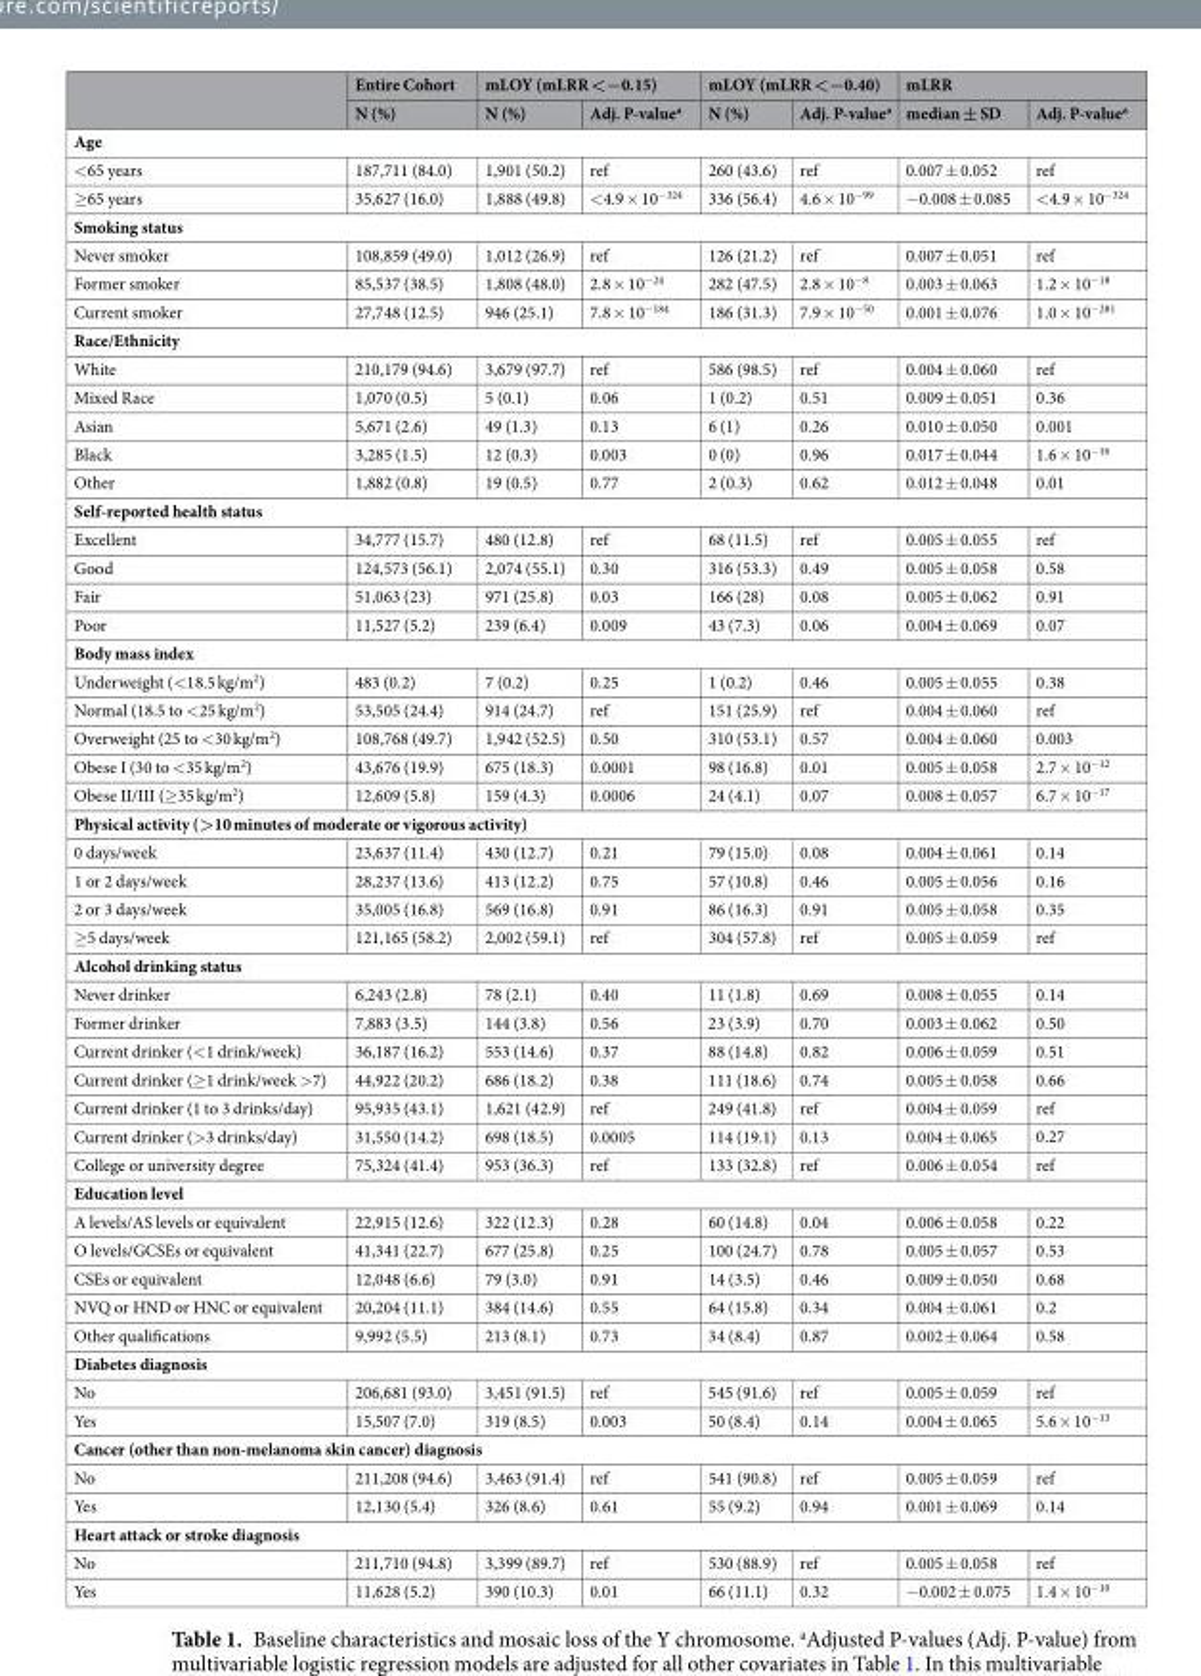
<table><thead><tr><td rowspan="2"></td><td rowspan="2">Entire Cohort N (%)</td><td colspan="2">mLOY (mLRR &lt;−0.15)</td><td colspan="2">mLOY (mLRR &lt;−0.40)</td><td colspan="2">mLRR</td></tr><tr><td>N (%)</td><td>Adj. P-value<sup>a</sup></td><td>N (%)</td><td>Adj. P-value<sup>a</sup></td><td>median ± SD</td><td>Adj. P-value<sup>a</sup></td></tr></thead><tbody><tr><td colspan="8">Age</td></tr><tr><td>&lt;65 years</td><td>187,711 (84.0)</td><td>1,901 (50.2)</td><td>ref</td><td>260 (43.6)</td><td>ref</td><td>0.007 ± 0.052</td><td>ref</td></tr><tr><td>≥65 years</td><td>35,627 (16.0)</td><td>1,888 (49.8)</td><td>&lt;4.9 × 10<sup>−324</sup></td><td>336 (56.4)</td><td>4.6 × 10<sup>−99</sup></td><td>−0.008 ± 0.085</td><td>&lt;4.9 × 10<sup>−324</sup></td></tr><tr><td colspan="8">Smoking status</td></tr><tr><td>Never smoker</td><td>108,859 (49.0)</td><td>1,012 (26.9)</td><td>ref</td><td>126 (21.2)</td><td>ref</td><td>0.007 ± 0.051</td><td>ref</td></tr><tr><td>Former smoker</td><td>85,537 (38.5)</td><td>1,808 (48.0)</td><td>2.8 × 10<sup>−24</sup></td><td>282 (47.5)</td><td>2.8 × 10<sup>−8</sup></td><td>0.003 ± 0.063</td><td>1.2 × 10<sup>−18</sup></td></tr><tr><td>Current smoker</td><td>27,748 (12.5)</td><td>946 (25.1)</td><td>7.8 × 10<sup>−184</sup></td><td>186 (31.3)</td><td>7.9 × 10<sup>−50</sup></td><td>0.001 ± 0.076</td><td>1.0 × 10<sup>−281</sup></td></tr><tr><td colspan="8">Race/Ethnicity</td></tr><tr><td>White</td><td>210,179 (94.6)</td><td>3,679 (97.7)</td><td>ref</td><td>586 (98.5)</td><td>ref</td><td>0.004 ± 0.060</td><td>ref</td></tr><tr><td>Mixed Race</td><td>1,070 (0.5)</td><td>5 (0.1)</td><td>0.06</td><td>1 (0.2)</td><td>0.51</td><td>0.009 ± 0.051</td><td>0.36</td></tr><tr><td>Asian</td><td>5,671 (2.6)</td><td>49 (1.3)</td><td>0.13</td><td>6 (1)</td><td>0.26</td><td>0.010 ± 0.050</td><td>0.001</td></tr><tr><td>Black</td><td>3,285 (1.5)</td><td>12 (0.3)</td><td>0.003</td><td>0 (0)</td><td>0.96</td><td>0.017 ± 0.044</td><td>1.6 × 10<sup>−16</sup></td></tr><tr><td>Other</td><td>1,882 (0.8)</td><td>19 (0.5)</td><td>0.77</td><td>2 (0.3)</td><td>0.62</td><td>0.012 ± 0.048</td><td>0.01</td></tr><tr><td colspan="8">Self-reported health status</td></tr><tr><td>Excellent</td><td>34,777 (15.7)</td><td>480 (12.8)</td><td>ref</td><td>68 (11.5)</td><td>ref</td><td>0.005 ± 0.055</td><td>ref</td></tr><tr><td>Good</td><td>124,573 (56.1)</td><td>2,074 (55.1)</td><td>0.30</td><td>316 (53.3)</td><td>0.49</td><td>0.005 ± 0.058</td><td>0.58</td></tr><tr><td>Fair</td><td>51,063 (23)</td><td>971 (25.8)</td><td>0.03</td><td>166 (28)</td><td>0.08</td><td>0.005 ± 0.062</td><td>0.91</td></tr><tr><td>Poor</td><td>11,527 (5.2)</td><td>239 (6.4)</td><td>0.009</td><td>43 (7.3)</td><td>0.06</td><td>0.004 ± 0.069</td><td>0.07</td></tr><tr><td colspan="8">Body mass index</td></tr><tr><td>Underweight (&lt;18.5 kg/m<sup>2</sup>)</td><td>483 (0.2)</td><td>7 (0.2)</td><td>0.25</td><td>1 (0.2)</td><td>0.46</td><td>0.005 ± 0.055</td><td>0.38</td></tr><tr><td>Normal (18.5 to &lt;25 kg/m<sup>2</sup>)</td><td>53,505 (24.4)</td><td>914 (24.7)</td><td>ref</td><td>151 (25.9)</td><td>ref</td><td>0.004 ± 0.060</td><td>ref</td></tr><tr><td>Overweight (25 to &lt;30 kg/m<sup>2</sup>)</td><td>108,768 (49.7)</td><td>1,942 (52.5)</td><td>0.50</td><td>310 (53.1)</td><td>0.57</td><td>0.004 ± 0.060</td><td>0.003</td></tr><tr><td>Obese I (30 to &lt;35 kg/m<sup>2</sup>)</td><td>43,676 (19.9)</td><td>675 (18.3)</td><td>0.0001</td><td>98 (16.8)</td><td>0.01</td><td>0.005 ± 0.058</td><td>2.7 × 10<sup>−12</sup></td></tr><tr><td>Obese II/III (≥35 kg/m<sup>2</sup>)</td><td>12,609 (5.8)</td><td>159 (4.3)</td><td>0.0006</td><td>24 (4.1)</td><td>0.07</td><td>0.008 ± 0.057</td><td>6.7 × 10<sup>−17</sup></td></tr><tr><td colspan="8">Physical activity (&gt;10 minutes of moderate or vigorous activity)</td></tr><tr><td>0 days/week</td><td>23,637 (11.4)</td><td>430 (12.7)</td><td>0.21</td><td>79 (15.0)</td><td>0.08</td><td>0.004 ± 0.061</td><td>0.14</td></tr><tr><td>1 or 2 days/week</td><td>28,237 (13.6)</td><td>413 (12.2)</td><td>0.75</td><td>57 (10.8)</td><td>0.46</td><td>0.005 ± 0.056</td><td>0.16</td></tr><tr><td>2 or 3 days/week</td><td>35,005 (16.8)</td><td>569 (16.8)</td><td>0.91</td><td>86 (16.3)</td><td>0.91</td><td>0.005 ± 0.058</td><td>0.35</td></tr><tr><td>≥5 days/week</td><td>121,165 (58.2)</td><td>2,002 (59.1)</td><td>ref</td><td>304 (57.8)</td><td>ref</td><td>0.005 ± 0.059</td><td>ref</td></tr><tr><td colspan="8">Alcohol drinking status</td></tr><tr><td>Never drinker</td><td>6,243 (2.8)</td><td>78 (2.1)</td><td>0.40</td><td>11 (1.8)</td><td>0.69</td><td>0.008 ± 0.055</td><td>0.14</td></tr><tr><td>Former drinker</td><td>7,883 (3.5)</td><td>144 (3.8)</td><td>0.56</td><td>23 (3.9)</td><td>0.70</td><td>0.003 ± 0.062</td><td>0.50</td></tr><tr><td>Current drinker (&lt;1 drink/week)</td><td>36,187 (16.2)</td><td>553 (14.6)</td><td>0.37</td><td>88 (14.8)</td><td>0.82</td><td>0.006 ± 0.059</td><td>0.51</td></tr><tr><td>Current drinker (≥1 drink/week &gt;7)</td><td>44,922 (20.2)</td><td>686 (18.2)</td><td>0.38</td><td>111 (18.6)</td><td>0.74</td><td>0.005 ± 0.058</td><td>0.66</td></tr><tr><td>Current drinker (1 to 3 drinks/day)</td><td>95,935 (43.1)</td><td>1,621 (42.9)</td><td>ref</td><td>249 (41.8)</td><td>ref</td><td>0.004 ± 0.059</td><td>ref</td></tr><tr><td>Current drinker (&gt;3 drinks/day)</td><td>31,550 (14.2)</td><td>698 (18.5)</td><td>0.0005</td><td>114 (19.1)</td><td>0.13</td><td>0.004 ± 0.065</td><td>0.27</td></tr><tr><td>College or university degree</td><td>75,324 (41.4)</td><td>953 (36.3)</td><td>ref</td><td>133 (32.8)</td><td>ref</td><td>0.006 ± 0.054</td><td>ref</td></tr><tr><td colspan="8">Education level</td></tr><tr><td>A levels/AS levels or equivalent</td><td>22,915 (12.6)</td><td>322 (12.3)</td><td>0.28</td><td>60 (14.8)</td><td>0.04</td><td>0.006 ± 0.058</td><td>0.22</td></tr><tr><td>O levels/GCSEs or equivalent</td><td>41,341 (22.7)</td><td>677 (25.8)</td><td>0.25</td><td>100 (24.7)</td><td>0.78</td><td>0.005 ± 0.057</td><td>0.53</td></tr><tr><td>CSEs or equivalent</td><td>12,048 (6.6)</td><td>79 (3.0)</td><td>0.91</td><td>14 (3.5)</td><td>0.46</td><td>0.009 ± 0.050</td><td>0.68</td></tr><tr><td>NVQ or HND or HNC or equivalent</td><td>20,204 (11.1)</td><td>384 (14.6)</td><td>0.55</td><td>64 (15.8)</td><td>0.34</td><td>0.004 ± 0.061</td><td>0.2</td></tr><tr><td>Other qualifications</td><td>9,992 (5.5)</td><td>213 (8.1)</td><td>0.73</td><td>34 (8.4)</td><td>0.87</td><td>0.002 ± 0.064</td><td>0.58</td></tr><tr><td colspan="8">Diabetes diagnosis</td></tr><tr><td>No</td><td>206,681 (93.0)</td><td>3,451 (91.5)</td><td>ref</td><td>545 (91.6)</td><td>ref</td><td>0.005 ± 0.059</td><td>ref</td></tr><tr><td>Yes</td><td>15,507 (7.0)</td><td>319 (8.5)</td><td>0.003</td><td>50 (8.4)</td><td>0.14</td><td>0.004 ± 0.065</td><td>5.6 × 10<sup>−13</sup></td></tr><tr><td colspan="8">Cancer (other than non-melanoma skin cancer) diagnosis</td></tr><tr><td>No</td><td>211,208 (94.6)</td><td>3,463 (91.4)</td><td>ref</td><td>541 (90.8)</td><td>ref</td><td>0.005 ± 0.059</td><td>ref</td></tr><tr><td>Yes</td><td>12,130 (5.4)</td><td>326 (8.6)</td><td>0.61</td><td>55 (9.2)</td><td>0.94</td><td>0.001 ± 0.069</td><td>0.14</td></tr><tr><td colspan="8">Heart attack or stroke diagnosis</td></tr><tr><td>No</td><td>211,710 (94.8)</td><td>3,399 (89.7)</td><td>ref</td><td>530 (88.9)</td><td>ref</td><td>0.005 ± 0.058</td><td>ref</td></tr><tr><td>Yes</td><td>11,628 (5.2)</td><td>390 (10.3)</td><td>0.01</td><td>66 (11.1)</td><td>0.32</td><td>−0.002 ± 0.075</td><td>1.4 × 10<sup>−10</sup></td></tr></tbody></table>